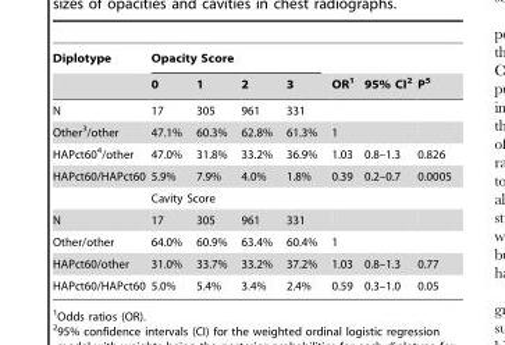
<table><thead><tr><td rowspan="2">Diplotype</td><td colspan="4">Opacity Score</td><td rowspan="2">OR<sup>1</sup></td><td rowspan="2">95% CI<sup>2</sup></td><td rowspan="2">P<sup>5</sup></td></tr><tr><td>0</td><td>1</td><td>2</td><td>3</td></tr></thead><tbody><tr><td>N</td><td>17</td><td>305</td><td>961</td><td>331</td><td></td><td></td><td></td></tr><tr><td>Other<sup>3</sup>/other</td><td>47.1%</td><td>60.3%</td><td>62.8%</td><td>61.3%</td><td>1</td><td></td><td></td></tr><tr><td>HAPct60<sup>4</sup>/other</td><td>47.0%</td><td>31.8%</td><td>33.2%</td><td>36.9%</td><td>1.03</td><td>0.8–1.3</td><td>0.826</td></tr><tr><td rowspan="2">HAPct60/HAPct60</td><td>5.9%</td><td>7.9%</td><td>4.0%</td><td>1.8%</td><td>0.39</td><td>0.2–0.7</td><td>0.0005</td></tr><tr><td colspan="4">Cavity Score</td><td></td><td></td><td></td></tr><tr><td>N</td><td>17</td><td>305</td><td>961</td><td>331</td><td></td><td></td><td></td></tr><tr><td>Other/other</td><td>64.0%</td><td>60.9%</td><td>63.4%</td><td>60.4%</td><td>1</td><td></td><td></td></tr><tr><td>HAPct60/other</td><td>31.0%</td><td>33.7%</td><td>33.2%</td><td>37.2%</td><td>1.03</td><td>0.8–1.3</td><td>0.77</td></tr><tr><td>HAPct60/HAPct60</td><td>5.0%</td><td>5.4%</td><td>3.4%</td><td>2.4%</td><td>0.59</td><td>0.3–1.0</td><td>0.05</td></tr></tbody></table>